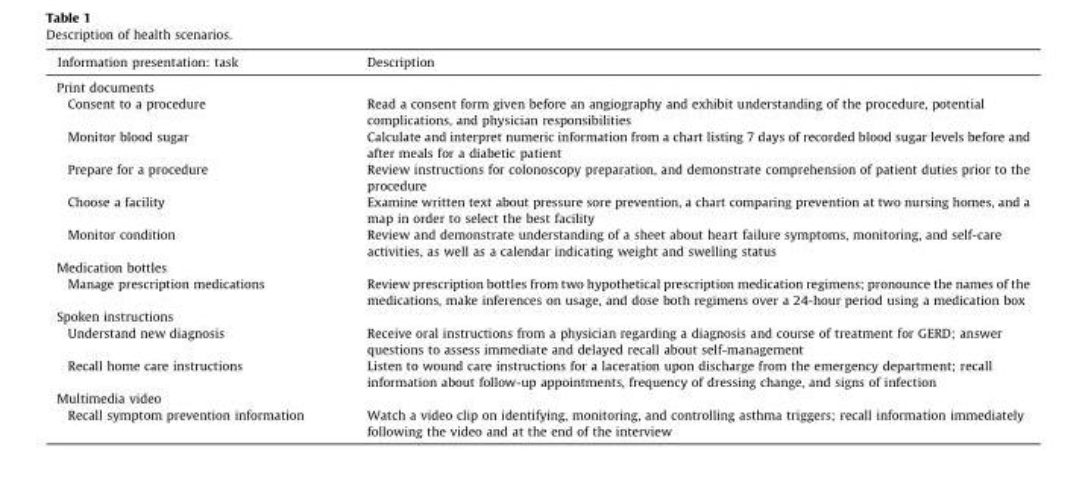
<table><thead><tr><td>Information presentation: task</td><td>Description</td></tr></thead><tbody><tr><td colspan="2">Print documents</td></tr><tr><td>Consent to a procedure</td><td>Read a consent form given before an angiography and exhibit understanding of the procedure, potential complications, and physician responsibilities</td></tr><tr><td>Monitor blood sugar</td><td>Calculate and interpret numeric information from a chart listing 7 days of recorded blood sugar levels before and after meals for a diabetic patient</td></tr><tr><td>Prepare for a procedure</td><td>Review instructions for colonoscopy preparation, and demonstrate comprehension of patient duties prior to the procedure</td></tr><tr><td>Choose a facility</td><td>Examine written text about pressure sore prevention, a chart comparing prevention at two nursing homes, and a map in order to select the best facility</td></tr><tr><td>Monitor condition</td><td>Review and demonstrate understanding of a sheet about heart failure symptoms, monitoring, and self-care activities, as well as a calendar indicating weight and swelling status</td></tr><tr><td colspan="2">Medication bottles</td></tr><tr><td>Manage prescription medications</td><td>Review prescription bottles from two hypothetical prescription medication regimens; pronounce the names of the medications, make inferences on usage, and dose both regimens over a 24-hour period using a medication box</td></tr><tr><td colspan="2">Spoken instructions</td></tr><tr><td>Understand new diagnosis</td><td>Receive oral instructions from a physician regarding a diagnosis and course of treatment for GERD; answer questions to assess immediate and delayed recall about self-management</td></tr><tr><td>Recall home care instructions</td><td>Listen to wound care instructions for a laceration upon discharge from the emergency department; recall information about follow-up appointments, frequency of dressing change, and signs of infection</td></tr><tr><td colspan="2">Multimedia video</td></tr><tr><td>Recall symptom prevention information</td><td>Watch a video clip on identifying, monitoring, and controlling asthma triggers; recall information immediately following the video and at the end of the interview</td></tr></tbody></table>